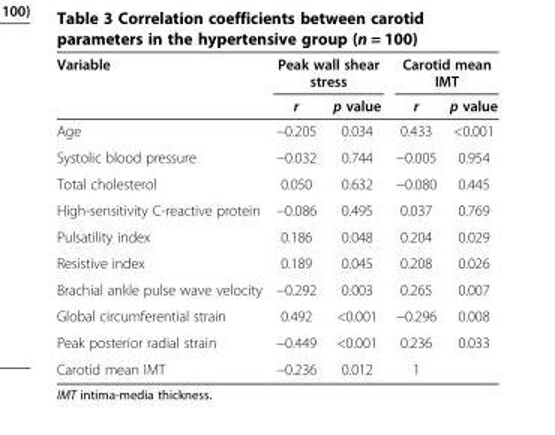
<table><thead><tr><td rowspan="2">Variable</td><td colspan="2">Peak wall shear stress</td><td colspan="2">Carotid mean IMT</td></tr><tr><td>r</td><td>p value</td><td>r</td><td>p value</td></tr></thead><tbody><tr><td>Age</td><td>−0.205</td><td>0.034</td><td>0.433</td><td>&lt;0.001</td></tr><tr><td>Systolic blood pressure</td><td>−0.032</td><td>0.744</td><td>−0.005</td><td>0.954</td></tr><tr><td>Total cholesterol</td><td>0.050</td><td>0.632</td><td>−0.080</td><td>0.445</td></tr><tr><td>High-sensitivity C-reactive protein</td><td>−0.086</td><td>0.495</td><td>0.037</td><td>0.769</td></tr><tr><td>Pulsatility index</td><td>0.186</td><td>0.048</td><td>0.204</td><td>0.029</td></tr><tr><td>Resistive index</td><td>0.189</td><td>0.045</td><td>0.208</td><td>0.026</td></tr><tr><td>Brachial ankle pulse wave velocity</td><td>−0.292</td><td>0.003</td><td>0.265</td><td>0.007</td></tr><tr><td>Global circumferential strain</td><td>0.492</td><td>&lt;0.001</td><td>−0.296</td><td>0.008</td></tr><tr><td>Peak posterior radial strain</td><td>−0.449</td><td>&lt;0.001</td><td>0.236</td><td>0.033</td></tr><tr><td>Carotid mean IMT</td><td>−0.236</td><td>0.012</td><td>1</td><td></td></tr></tbody></table>